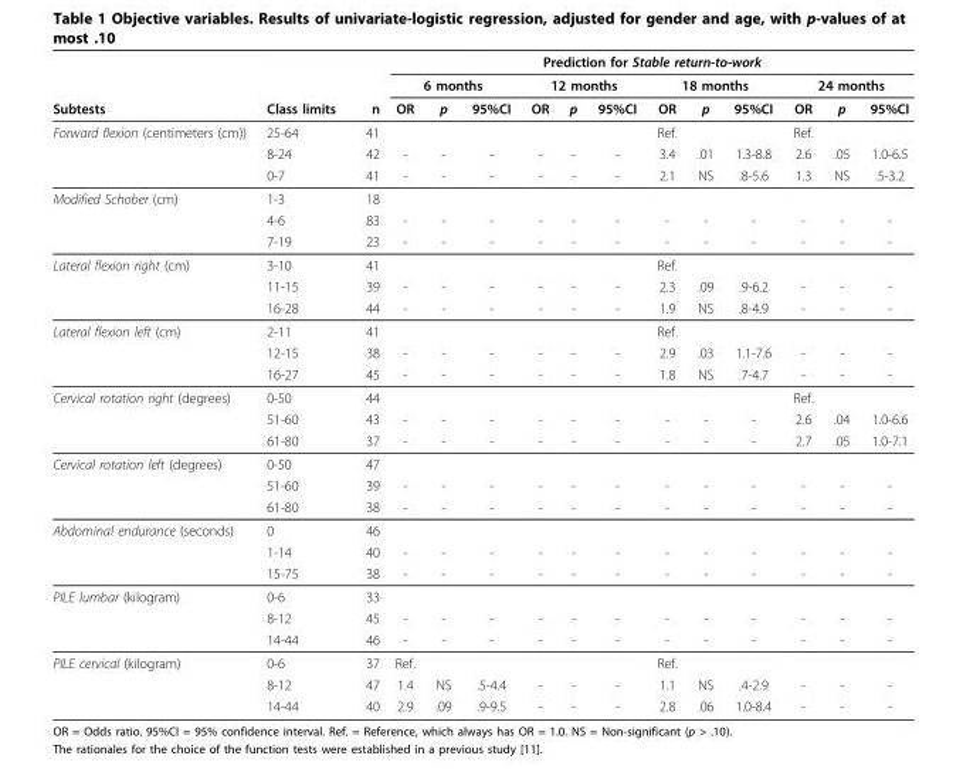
<table><thead><tr><td rowspan="3">Subtests</td><td rowspan="3">Class limits</td><td rowspan="3">n</td><td colspan="12">Prediction for Stable return-to-work</td></tr><tr><td colspan="3">6 months</td><td colspan="3">12 months</td><td colspan="3">18 months</td><td colspan="3">24 months</td></tr><tr><td>OR</td><td>p</td><td>95%CI</td><td>OR</td><td>p</td><td>95%CI</td><td>OR</td><td>p</td><td>95%CI</td><td>OR</td><td>p</td><td>95%CI</td></tr></thead><tbody><tr><td rowspan="3">Forward flexion (centimeters (cm))</td><td>25-64</td><td>41</td><td></td><td></td><td></td><td></td><td></td><td></td><td>Ref.</td><td></td><td></td><td>Ref.</td><td></td><td></td></tr><tr><td>8-24</td><td>42</td><td>-</td><td>-</td><td>-</td><td>-</td><td>-</td><td>-</td><td>3.4</td><td>.01</td><td>1.3-8.8</td><td>2.6</td><td>.05</td><td>1.0-6.5</td></tr><tr><td>0-7</td><td>41</td><td>-</td><td>-</td><td>-</td><td>-</td><td>-</td><td>-</td><td>2.1</td><td>NS</td><td>.8-5.6</td><td>1.3</td><td>NS</td><td>.5-3.2</td></tr><tr><td rowspan="3">Modified Schober (cm)</td><td>1-3</td><td>18</td><td></td><td></td><td></td><td></td><td></td><td></td><td></td><td></td><td></td><td></td><td></td><td></td></tr><tr><td>4-6</td><td>83</td><td>-</td><td>-</td><td>-</td><td>-</td><td>-</td><td>-</td><td>-</td><td>-</td><td>-</td><td>-</td><td>-</td><td>-</td></tr><tr><td>7-19</td><td>23</td><td>-</td><td>-</td><td>-</td><td>-</td><td>-</td><td>-</td><td>-</td><td>-</td><td>-</td><td>-</td><td>-</td><td>-</td></tr><tr><td rowspan="3">Lateral flexion right (cm)</td><td>3-10</td><td>41</td><td></td><td></td><td></td><td></td><td></td><td></td><td>Ref.</td><td></td><td></td><td></td><td></td><td></td></tr><tr><td>11-15</td><td>39</td><td>-</td><td>-</td><td>-</td><td>-</td><td>-</td><td>-</td><td>2.3</td><td>.09</td><td>.9-6.2</td><td>-</td><td>-</td><td>-</td></tr><tr><td>16-28</td><td>44</td><td>-</td><td>-</td><td>-</td><td>-</td><td>-</td><td>-</td><td>1.9</td><td>NS</td><td>.8-4.9</td><td>-</td><td>-</td><td>-</td></tr><tr><td rowspan="3">Lateral flexion left (cm)</td><td>2-11</td><td>41</td><td></td><td></td><td></td><td></td><td></td><td></td><td>Ref.</td><td></td><td></td><td></td><td></td><td></td></tr><tr><td>12-15</td><td>38</td><td>-</td><td>-</td><td>-</td><td>-</td><td>-</td><td>-</td><td>2.9</td><td>.03</td><td>1.1-7.6</td><td>-</td><td>-</td><td>-</td></tr><tr><td>16-27</td><td>45</td><td>-</td><td>-</td><td>-</td><td>-</td><td>-</td><td>-</td><td>1.8</td><td>NS</td><td>.7-4.7</td><td>-</td><td>-</td><td>-</td></tr><tr><td rowspan="3">Cervical rotation right (degrees)</td><td>0-50</td><td>44</td><td></td><td></td><td></td><td></td><td></td><td></td><td></td><td></td><td></td><td>Ref.</td><td></td><td></td></tr><tr><td>51-60</td><td>43</td><td>-</td><td>-</td><td>-</td><td>-</td><td>-</td><td>-</td><td>-</td><td>-</td><td>-</td><td>2.6</td><td>.04</td><td>1.0-6.6</td></tr><tr><td>61-80</td><td>37</td><td>-</td><td>-</td><td>-</td><td>-</td><td>-</td><td>-</td><td>-</td><td>-</td><td>-</td><td>2.7</td><td>.05</td><td>1.0-7.1</td></tr><tr><td rowspan="3">Cervical rotation left (degrees)</td><td>0-50</td><td>47</td><td></td><td></td><td></td><td></td><td></td><td></td><td></td><td></td><td></td><td></td><td></td><td></td></tr><tr><td>51-60</td><td>39</td><td>-</td><td>-</td><td>-</td><td>-</td><td>-</td><td>-</td><td>-</td><td>-</td><td>-</td><td>-</td><td>-</td><td>-</td></tr><tr><td>61-80</td><td>38</td><td>-</td><td>-</td><td>-</td><td>-</td><td>-</td><td>-</td><td>-</td><td>-</td><td>-</td><td>-</td><td>-</td><td>-</td></tr><tr><td rowspan="3">Abdominal endurance (seconds)</td><td>0</td><td>46</td><td></td><td></td><td></td><td></td><td></td><td></td><td></td><td></td><td></td><td></td><td></td><td></td></tr><tr><td>1-14</td><td>40</td><td>-</td><td>-</td><td>-</td><td>-</td><td>-</td><td>-</td><td>-</td><td>-</td><td>-</td><td>-</td><td>-</td><td>-</td></tr><tr><td>15-75</td><td>38</td><td>-</td><td>-</td><td>-</td><td>-</td><td>-</td><td>-</td><td>-</td><td>-</td><td>-</td><td>-</td><td>-</td><td>-</td></tr><tr><td rowspan="3">PILE lumbar (kilogram)</td><td>0-6</td><td>33</td><td></td><td></td><td></td><td></td><td></td><td></td><td></td><td></td><td></td><td></td><td></td><td></td></tr><tr><td>8-12</td><td>45</td><td>-</td><td>-</td><td>-</td><td>-</td><td>-</td><td>-</td><td>-</td><td>-</td><td>-</td><td>-</td><td>-</td><td>-</td></tr><tr><td>14-44</td><td>46</td><td>-</td><td>-</td><td>-</td><td>-</td><td>-</td><td>-</td><td>-</td><td>-</td><td>-</td><td>-</td><td>-</td><td>-</td></tr><tr><td rowspan="3">PILE cervical (kilogram)</td><td>0-6</td><td>37</td><td>Ref.</td><td></td><td></td><td></td><td></td><td></td><td>Ref.</td><td></td><td></td><td></td><td></td><td></td></tr><tr><td>8-12</td><td>47</td><td>1.4</td><td>NS</td><td>.5-4.4</td><td>-</td><td>-</td><td>-</td><td>1.1</td><td>NS</td><td>.4-2.9</td><td>-</td><td>-</td><td>-</td></tr><tr><td>14-44</td><td>40</td><td>2.9</td><td>.09</td><td>.9-9.5</td><td>-</td><td>-</td><td>-</td><td>2.8</td><td>.06</td><td>1.0-8.4</td><td>-</td><td>-</td><td>-</td></tr></tbody></table>